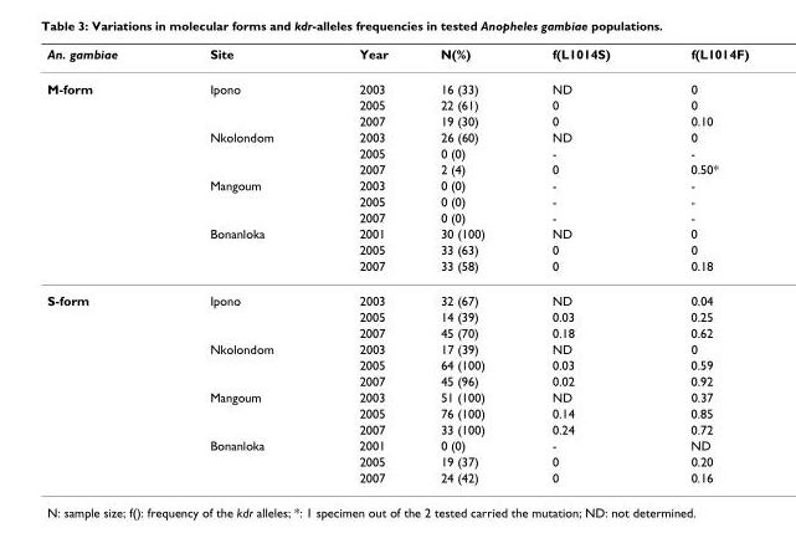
<table><thead><tr><td>An. gambiae</td><td>Site</td><td>Year</td><td>N(%)</td><td>f(L1014S)</td><td>f(L1014F)</td></tr></thead><tbody><tr><td rowspan="12">M-form</td><td>Ipono</td><td>2003</td><td>16 (33)</td><td>ND</td><td>0</td></tr><tr><td></td><td>2005</td><td>22 (61)</td><td>0</td><td>0</td></tr><tr><td></td><td>2007</td><td>19 (30)</td><td>0</td><td>0.10</td></tr><tr><td>Nkolondom</td><td>2003</td><td>26 (60)</td><td>ND</td><td>0</td></tr><tr><td></td><td>2005</td><td>0 (0)</td><td>-</td><td>-</td></tr><tr><td></td><td>2007</td><td>2 (4)</td><td>0</td><td>0.50*</td></tr><tr><td>Mangoum</td><td>2003</td><td>0 (0)</td><td>-</td><td>-</td></tr><tr><td></td><td>2005</td><td>0 (0)</td><td>-</td><td>-</td></tr><tr><td></td><td>2007</td><td>0 (0)</td><td>-</td><td>-</td></tr><tr><td>Bonanloka</td><td>2001</td><td>30 (100)</td><td>ND</td><td>0</td></tr><tr><td></td><td>2005</td><td>33 (63)</td><td>0</td><td>0</td></tr><tr><td></td><td>2007</td><td>33 (58)</td><td>0</td><td>0.18</td></tr><tr><td rowspan="12">S-form</td><td>Ipono</td><td>2003</td><td>32 (67)</td><td>ND</td><td>0.04</td></tr><tr><td></td><td>2005</td><td>14 (39)</td><td>0.03</td><td>0.25</td></tr><tr><td></td><td>2007</td><td>45 (70)</td><td>0.18</td><td>0.62</td></tr><tr><td>Nkolondom</td><td>2003</td><td>17 (39)</td><td>ND</td><td>0</td></tr><tr><td></td><td>2005</td><td>64 (100)</td><td>0.03</td><td>0.59</td></tr><tr><td></td><td>2007</td><td>45 (96)</td><td>0.02</td><td>0.92</td></tr><tr><td>Mangoum</td><td>2003</td><td>51 (100)</td><td>ND</td><td>0.37</td></tr><tr><td></td><td>2005</td><td>76 (100)</td><td>0.14</td><td>0.85</td></tr><tr><td></td><td>2007</td><td>33 (100)</td><td>0.24</td><td>0.72</td></tr><tr><td>Bonanloka</td><td>2001</td><td>0 (0)</td><td>-</td><td>ND</td></tr><tr><td></td><td>2005</td><td>19 (37)</td><td>0</td><td>0.20</td></tr><tr><td></td><td>2007</td><td>24 (42)</td><td>0</td><td>0.16</td></tr></tbody></table>